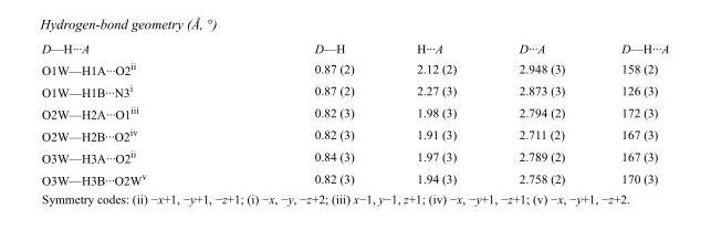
<table><tbody><tr><td>D—H···A</td><td>D—H</td><td>H···A</td><td>D···A</td><td>D—H···A</td></tr><tr><td>O1W—H1A···O2<sup>ii</sup></td><td>0.87 (2)</td><td>2.12 (2)</td><td>2.948 (3)</td><td>158 (2)</td></tr><tr><td>O1W—H1B···N3<sup>i</sup></td><td>0.87 (2)</td><td>2.27 (3)</td><td>2.873 (3)</td><td>126 (3)</td></tr><tr><td>O2W—H2A···O1<sup>iii</sup></td><td>0.82 (3)</td><td>1.98 (3)</td><td>2.794 (2)</td><td>172 (3)</td></tr><tr><td>O2W—H2B···O2<sup>iv</sup></td><td>0.82 (3)</td><td>1.91 (3)</td><td>2.711 (2)</td><td>167 (3)</td></tr><tr><td>O3W—H3A···O2<sup>ii</sup></td><td>0.84 (3)</td><td>1.97 (3)</td><td>2.789 (2)</td><td>167 (3)</td></tr><tr><td>O3W—H3B···O2W<sup>v</sup></td><td>0.82 (3)</td><td>1.94 (3)</td><td>2.758 (2)</td><td>170 (3)</td></tr></tbody></table>